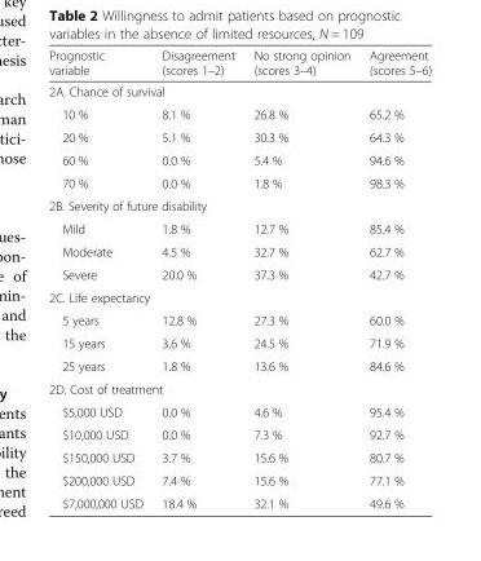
<table><thead><tr><td>Prognostic variable</td><td>Disagreement (scores 1–2)</td><td>No strong opinion (scores 3–4)</td><td>Agreement (scores 5–6)</td></tr></thead><tbody><tr><td colspan="4">2A. Chance of survival</td></tr><tr><td>10 %</td><td>8.1 %</td><td>26.8 %</td><td>65.2 %</td></tr><tr><td>20 %</td><td>5.1 %</td><td>30.3 %</td><td>64.3 %</td></tr><tr><td>60 %</td><td>0.0 %</td><td>5.4 %</td><td>94.6 %</td></tr><tr><td>70 %</td><td>0.0 %</td><td>1.8 %</td><td>98.3 %</td></tr><tr><td colspan="4">2B. Severity of future disability</td></tr><tr><td>Mild</td><td>1.8 %</td><td>12.7 %</td><td>85.4 %</td></tr><tr><td>Moderate</td><td>4.5 %</td><td>32.7 %</td><td>62.7 %</td></tr><tr><td>Severe</td><td>20.0 %</td><td>37.3 %</td><td>42.7 %</td></tr><tr><td colspan="4">2C. Life expectancy</td></tr><tr><td>5 years</td><td>12.8 %</td><td>27.3 %</td><td>60.0 %</td></tr><tr><td>15 years</td><td>3.6 %</td><td>24.5 %</td><td>71.9 %</td></tr><tr><td>25 years</td><td>1.8 %</td><td>13.6 %</td><td>84.6 %</td></tr><tr><td colspan="4">2D. Cost of treatment</td></tr><tr><td>$5,000 USD</td><td>0.0 %</td><td>4.6 %</td><td>95.4 %</td></tr><tr><td>$10,000 USD</td><td>0.0 %</td><td>7.3 %</td><td>92.7 %</td></tr><tr><td>$150,000 USD</td><td>3.7 %</td><td>15.6 %</td><td>80.7 %</td></tr><tr><td>$200,000 USD</td><td>7.4 %</td><td>15.6 %</td><td>77.1 %</td></tr><tr><td>$7,000,000 USD</td><td>18.4 %</td><td>32.1 %</td><td>49.6 %</td></tr></tbody></table>